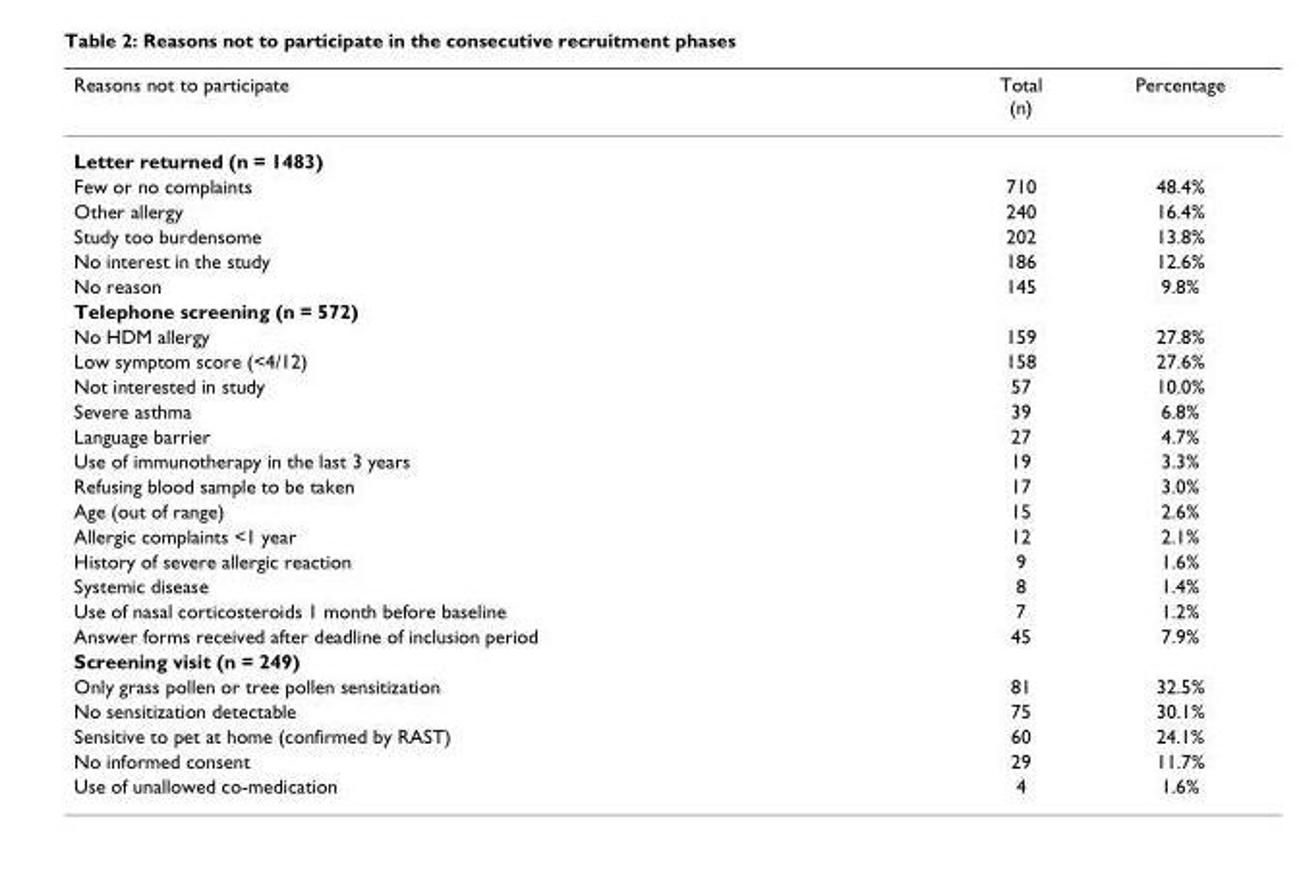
<table><thead><tr><td>Reasons not to participate</td><td>Total (n)</td><td>Percentage</td></tr></thead><tbody><tr><td colspan="3">Letter returned (n = 1483)</td></tr><tr><td>Few or no complaints</td><td>710</td><td>48.4%</td></tr><tr><td>Other allergy</td><td>240</td><td>16.4%</td></tr><tr><td>Study too burdensome</td><td>202</td><td>13.8%</td></tr><tr><td>No interest in the study</td><td>186</td><td>12.6%</td></tr><tr><td>No reason</td><td>145</td><td>9.8%</td></tr><tr><td colspan="3">Telephone screening (n = 572)</td></tr><tr><td>No HDM allergy</td><td>159</td><td>27.8%</td></tr><tr><td>Low symptom score (&lt;4/12)</td><td>158</td><td>27.6%</td></tr><tr><td>Not interested in study</td><td>57</td><td>10.0%</td></tr><tr><td>Severe asthma</td><td>39</td><td>6.8%</td></tr><tr><td>Language barrier</td><td>27</td><td>4.7%</td></tr><tr><td>Use of immunotherapy in the last 3 years</td><td>19</td><td>3.3%</td></tr><tr><td>Refusing blood sample to be taken</td><td>17</td><td>3.0%</td></tr><tr><td>Age (out of range)</td><td>15</td><td>2.6%</td></tr><tr><td>Allergic complaints &lt;1 year</td><td>12</td><td>2.1%</td></tr><tr><td>History of severe allergic reaction</td><td>9</td><td>1.6%</td></tr><tr><td>Systemic disease</td><td>8</td><td>1.4%</td></tr><tr><td>Use of nasal corticosteroids 1 month before baseline</td><td>7</td><td>1.2%</td></tr><tr><td>Answer forms received after deadline of inclusion period</td><td>45</td><td>7.9%</td></tr><tr><td colspan="3">Screening visit (n = 249)</td></tr><tr><td>Only grass pollen or tree pollen sensitization</td><td>81</td><td>32.5%</td></tr><tr><td>No sensitization detectable</td><td>75</td><td>30.1%</td></tr><tr><td>Sensitive to pet at home (confirmed by RAST)</td><td>60</td><td>24.1%</td></tr><tr><td>No informed consent</td><td>29</td><td>11.7%</td></tr><tr><td>Use of unallowed co-medication</td><td>4</td><td>1.6%</td></tr></tbody></table>